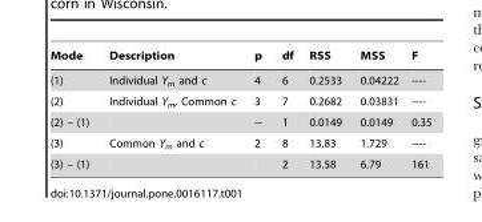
<table><thead><tr><td>Mode</td><td>Description</td><td>p</td><td>df</td><td>RSS</td><td>MSS</td><td>F</td></tr></thead><tbody><tr><td>(1)</td><td>Individual Y<sub>m</sub> and c</td><td>4</td><td>6</td><td>0.2533</td><td>0.04222</td><td>----</td></tr><tr><td>(2)</td><td>Individual Y<sub>m</sub>, Common c</td><td>3</td><td>7</td><td>0.2682</td><td>0.03831</td><td>----</td></tr><tr><td>(2) – (1)</td><td></td><td>--</td><td>1</td><td>0.0149</td><td>0.0149</td><td>0.35</td></tr><tr><td>(3)</td><td>Common Y<sub>m</sub> and c</td><td>2</td><td>8</td><td>13.83</td><td>1.729</td><td>----</td></tr><tr><td>(3) – (1)</td><td></td><td></td><td>2</td><td>13.58</td><td>6.79</td><td>161</td></tr></tbody></table>